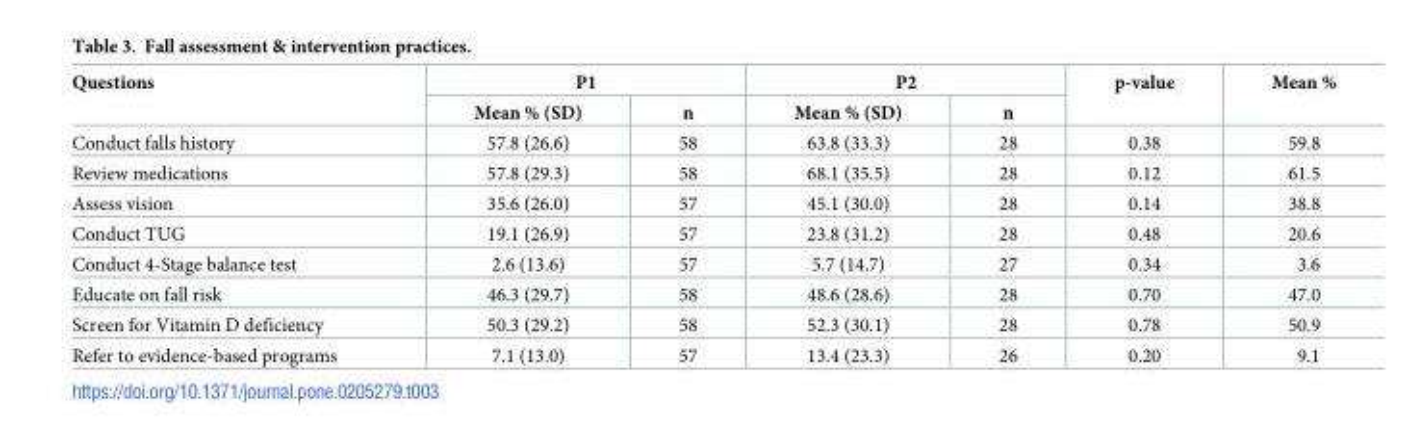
<table><thead><tr><td rowspan="2">Questions</td><td colspan="2">P1</td><td colspan="2">P2</td><td rowspan="2">p-value</td><td rowspan="2">Mean %</td></tr><tr><td>Mean % (SD)</td><td>n</td><td>Mean % (SD)</td><td>n</td></tr></thead><tbody><tr><td>Conduct falls history</td><td>57.8 (26.6)</td><td>58</td><td>63.8 (33.3)</td><td>28</td><td>0.38</td><td>59.8</td></tr><tr><td>Review medications</td><td>57.8 (29.3)</td><td>58</td><td>68.1 (35.5)</td><td>28</td><td>0.12</td><td>61.5</td></tr><tr><td>Assess vision</td><td>35.6 (26.0)</td><td>57</td><td>45.1 (30.0)</td><td>28</td><td>0.14</td><td>38.8</td></tr><tr><td>Conduct TUG</td><td>19.1 (26.9)</td><td>57</td><td>23.8 (31.2)</td><td>28</td><td>0.48</td><td>20.6</td></tr><tr><td>Conduct 4-Stage balance test</td><td>2.6 (13.6)</td><td>57</td><td>5.7 (14.7)</td><td>27</td><td>0.34</td><td>3.6</td></tr><tr><td>Educate on fall risk</td><td>46.3 (29.7)</td><td>58</td><td>48.6 (28.6)</td><td>28</td><td>0.70</td><td>47.0</td></tr><tr><td>Screen for Vitamin D deficiency</td><td>50.3 (29.2)</td><td>58</td><td>52.3 (30.1)</td><td>28</td><td>0.78</td><td>50.9</td></tr><tr><td>Refer to evidence-based programs</td><td>7.1 (13.0)</td><td>57</td><td>13.4 (23.3)</td><td>26</td><td>0.20</td><td>9.1</td></tr></tbody></table>